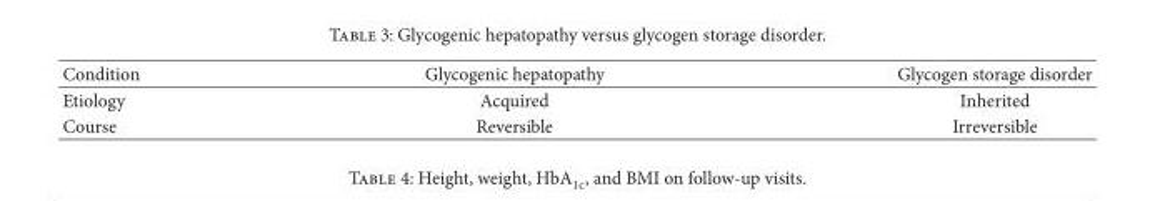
<table><thead><tr><td>Condition</td><td>Glycogenic hepatopathy</td><td>Glycogen storage disorder</td></tr></thead><tbody><tr><td>Etiology</td><td>Acquired</td><td>Inherited</td></tr><tr><td>Course</td><td>Reversible</td><td>Irreversible</td></tr></tbody></table>